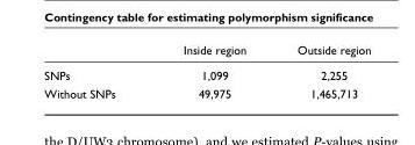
<table><thead><tr><td></td><td>Inside region</td><td>Outside region</td></tr></thead><tbody><tr><td>SNPs</td><td>1,099</td><td>2,255</td></tr><tr><td>Without SNPs</td><td>49,975</td><td>1,465,713</td></tr></tbody></table>